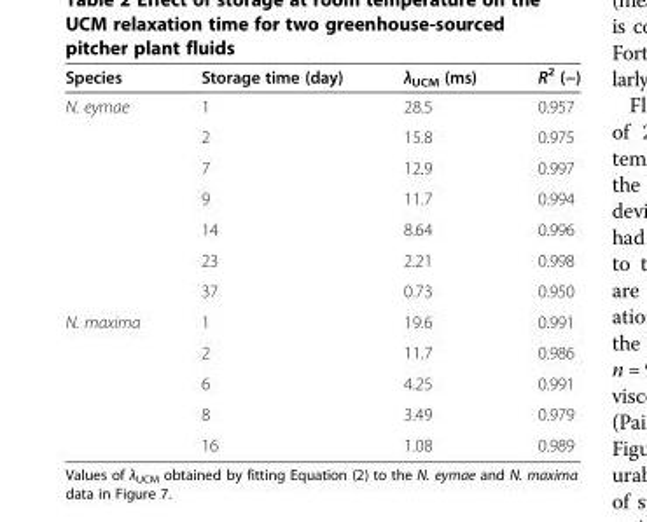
<table><thead><tr><td>Species</td><td>Storage time (day)</td><td>λ<sub>UCM</sub> (ms)</td><td>R<sup>2</sup> (−)</td></tr></thead><tbody><tr><td rowspan="7">N. eymae</td><td>1</td><td>28.5</td><td>0.957</td></tr><tr><td>2</td><td>15.8</td><td>0.975</td></tr><tr><td>7</td><td>12.9</td><td>0.997</td></tr><tr><td>9</td><td>11.7</td><td>0.994</td></tr><tr><td>14</td><td>8.64</td><td>0.996</td></tr><tr><td>23</td><td>2.21</td><td>0.998</td></tr><tr><td>37</td><td>0.73</td><td>0.950</td></tr><tr><td rowspan="5">N. maxima</td><td>1</td><td>19.6</td><td>0.991</td></tr><tr><td>2</td><td>11.7</td><td>0.986</td></tr><tr><td>6</td><td>4.25</td><td>0.991</td></tr><tr><td>8</td><td>3.49</td><td>0.979</td></tr><tr><td>16</td><td>1.08</td><td>0.989</td></tr></tbody></table>